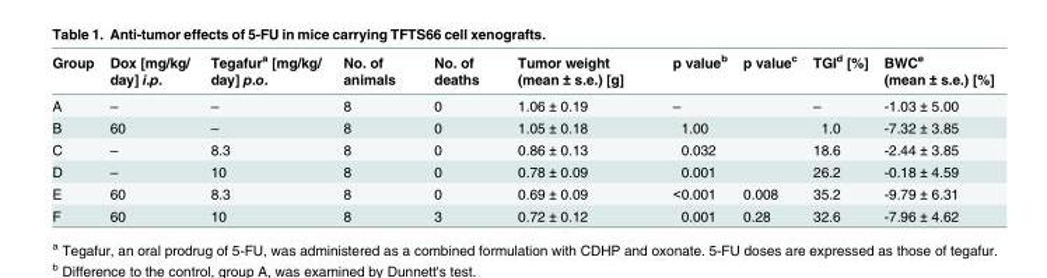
<table><thead><tr><td>Group</td><td>Dox [mg/kg/ day] i.p.</td><td>Tegafur<sup>a</sup> [mg/kg/ day] p.o.</td><td>No. of animals</td><td>No. of deaths</td><td>Tumor weight (mean ± s.e.) [g]</td><td>p value<sup>b</sup></td><td>p value<sup>c</sup></td><td>TGI<sup>d</sup> [%]</td><td>BWC<sup>e</sup> (mean ± s.e.) [%]</td></tr></thead><tbody><tr><td>A</td><td>–</td><td>–</td><td>8</td><td>0</td><td>1.06 ± 0.19</td><td>–</td><td></td><td>–</td><td>-1.03 ± 5.00</td></tr><tr><td>B</td><td>60</td><td>–</td><td>8</td><td>0</td><td>1.05 ± 0.18</td><td>1.00</td><td></td><td>1.0</td><td>-7.32 ± 3.85</td></tr><tr><td>C</td><td>–</td><td>8.3</td><td>8</td><td>0</td><td>0.86 ± 0.13</td><td>0.032</td><td></td><td>18.6</td><td>-2.44 ± 3.85</td></tr><tr><td>D</td><td>–</td><td>10</td><td>8</td><td>0</td><td>0.78 ± 0.09</td><td>0.001</td><td></td><td>26.2</td><td>-0.18 ± 4.59</td></tr><tr><td>E</td><td>60</td><td>8.3</td><td>8</td><td>0</td><td>0.69 ± 0.09</td><td>&lt;0.001</td><td>0.008</td><td>35.2</td><td>-9.79 ± 6.31</td></tr><tr><td>F</td><td>60</td><td>10</td><td>8</td><td>3</td><td>0.72 ± 0.12</td><td>0.001</td><td>0.28</td><td>32.6</td><td>-7.96 ± 4.62</td></tr></tbody></table>